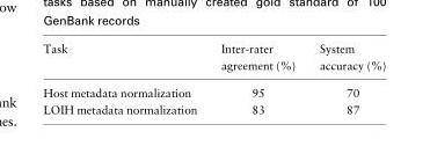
<table><thead><tr><td>Task</td><td>Inter-rater agreement (%)</td><td>System accuracy (%)</td></tr></thead><tbody><tr><td>Host metadata normalization</td><td>95</td><td>70</td></tr><tr><td>LOIH metadata normalization</td><td>83</td><td>87</td></tr></tbody></table>